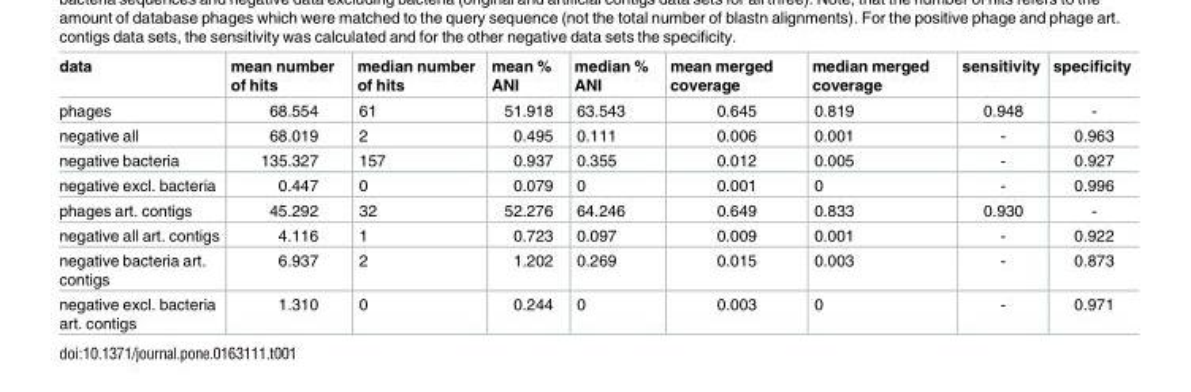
<table><thead><tr><td>data</td><td>mean number of hits</td><td>median number of hits</td><td>mean % ANI</td><td>median % ANI</td><td>mean merged coverage</td><td>median merged coverage</td><td>sensitivity</td><td>specificity</td></tr></thead><tbody><tr><td>phages</td><td>68.554</td><td>61</td><td>51.918</td><td>63.543</td><td>0.645</td><td>0.819</td><td>0.948</td><td>-</td></tr><tr><td>negative all</td><td>68.019</td><td>2</td><td>0.495</td><td>0.111</td><td>0.006</td><td>0.001</td><td>-</td><td>0.963</td></tr><tr><td>negative bacteria</td><td>135.327</td><td>157</td><td>0.937</td><td>0.355</td><td>0.012</td><td>0.005</td><td>-</td><td>0.927</td></tr><tr><td>negative excl. bacteria</td><td>0.447</td><td>0</td><td>0.079</td><td>0</td><td>0.001</td><td>0</td><td>-</td><td>0.996</td></tr><tr><td>phages art. contigs</td><td>45.292</td><td>32</td><td>52.276</td><td>64.246</td><td>0.649</td><td>0.833</td><td>0.930</td><td>-</td></tr><tr><td>negative all art. contigs</td><td>4.116</td><td>1</td><td>0.723</td><td>0.097</td><td>0.009</td><td>0.001</td><td>-</td><td>0.922</td></tr><tr><td>negative bacteria art. contigs</td><td>6.937</td><td>2</td><td>1.202</td><td>0.269</td><td>0.015</td><td>0.003</td><td>-</td><td>0.873</td></tr><tr><td>negative excl. bacteria art. contigs</td><td>1.310</td><td>0</td><td>0.244</td><td>0</td><td>0.003</td><td>0</td><td>-</td><td>0.971</td></tr></tbody></table>